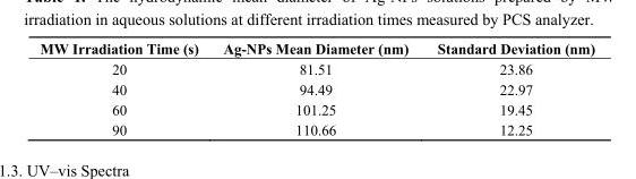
<table><thead><tr><td>MW Irradiation Time (s)</td><td>Ag-NPs Mean Diameter (nm)</td><td>Standard Deviation (nm)</td></tr></thead><tbody><tr><td>20</td><td>81.51</td><td>23.86</td></tr><tr><td>40</td><td>94.49</td><td>22.97</td></tr><tr><td>60</td><td>101.25</td><td>19.45</td></tr><tr><td>90</td><td>110.66</td><td>12.25</td></tr></tbody></table>